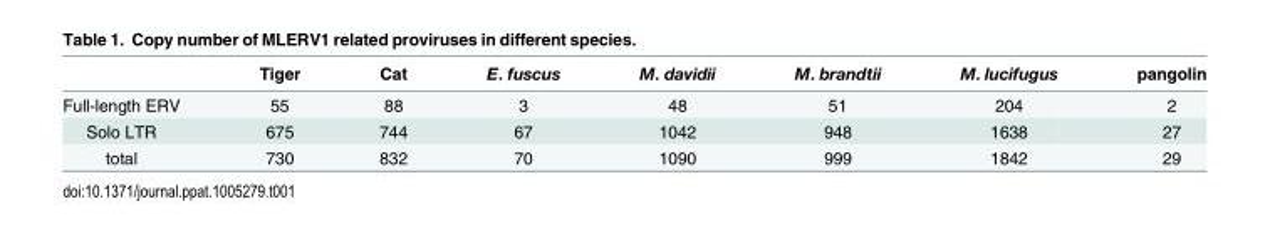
<table><thead><tr><td></td><td>Tiger</td><td>Cat</td><td>E. fuscus</td><td>M. davidii</td><td>M. brandtii</td><td>M. lucifugus</td><td>pangolin</td></tr></thead><tbody><tr><td>Full-length ERV</td><td>55</td><td>88</td><td>3</td><td>48</td><td>51</td><td>204</td><td>2</td></tr><tr><td>Solo LTR</td><td>675</td><td>744</td><td>67</td><td>1042</td><td>948</td><td>1638</td><td>27</td></tr><tr><td>total</td><td>730</td><td>832</td><td>70</td><td>1090</td><td>999</td><td>1842</td><td>29</td></tr></tbody></table>